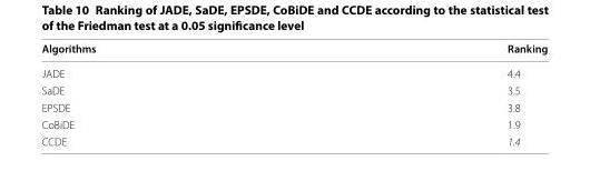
<table><thead><tr><td>Algorithms</td><td>Ranking</td></tr></thead><tbody><tr><td>JADE</td><td>4.4</td></tr><tr><td>SaDE</td><td>3.5</td></tr><tr><td>EPSDE</td><td>3.8</td></tr><tr><td>CoBiDE</td><td>1.9</td></tr><tr><td>CCDE</td><td>1.4</td></tr></tbody></table>